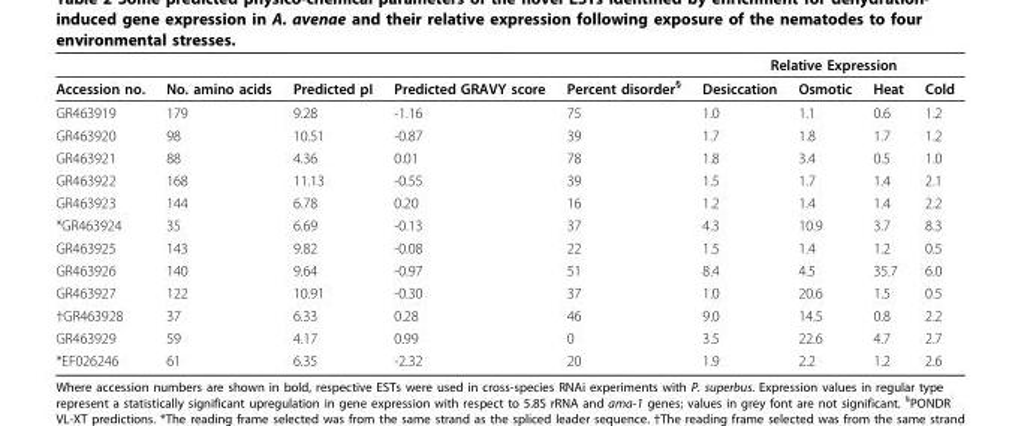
<table><thead><tr><td rowspan="2">Accession no.</td><td rowspan="2">No. amino acids</td><td rowspan="2">Predicted pI</td><td rowspan="2">Predicted GRAVY score</td><td rowspan="2">Percent disorder<sup>§</sup></td><td colspan="4">Relative Expression</td></tr><tr><td>Desiccation</td><td>Osmotic</td><td>Heat</td><td>Cold</td></tr></thead><tbody><tr><td>GR463919</td><td>179</td><td>9.28</td><td>-1.16</td><td>75</td><td>1.0</td><td>1.1</td><td>0.6</td><td>1.2</td></tr><tr><td>GR463920</td><td>98</td><td>10.51</td><td>-0.87</td><td>39</td><td>1.7</td><td>1.8</td><td>1.7</td><td>1.2</td></tr><tr><td>GR463921</td><td>88</td><td>4.36</td><td>0.01</td><td>78</td><td>1.8</td><td>3.4</td><td>0.5</td><td>1.0</td></tr><tr><td>GR463922</td><td>168</td><td>11.13</td><td>-0.55</td><td>39</td><td>1.5</td><td>1.7</td><td>1.4</td><td>2.1</td></tr><tr><td>GR463923</td><td>144</td><td>6.78</td><td>0.20</td><td>16</td><td>1.2</td><td>1.4</td><td>1.4</td><td>2.2</td></tr><tr><td>*GR463924</td><td>35</td><td>6.69</td><td>-0.13</td><td>37</td><td>4.3</td><td>10.9</td><td>3.7</td><td>8.3</td></tr><tr><td>GR463925</td><td>143</td><td>9.82</td><td>-0.08</td><td>22</td><td>1.5</td><td>1.4</td><td>1.2</td><td>0.5</td></tr><tr><td>GR463926</td><td>140</td><td>9.64</td><td>-0.97</td><td>51</td><td>8.4</td><td>4.5</td><td>35.7</td><td>6.0</td></tr><tr><td>GR463927</td><td>122</td><td>10.91</td><td>-0.30</td><td>37</td><td>1.0</td><td>20.6</td><td>1.5</td><td>0.5</td></tr><tr><td>†GR463928</td><td>37</td><td>6.33</td><td>0.28</td><td>46</td><td>9.0</td><td>14.5</td><td>0.8</td><td>2.2</td></tr><tr><td>GR463929</td><td>59</td><td>4.17</td><td>0.99</td><td>0</td><td>3.5</td><td>22.6</td><td>4.7</td><td>2.7</td></tr><tr><td>*EF026246</td><td>61</td><td>6.35</td><td>-2.32</td><td>20</td><td>1.9</td><td>2.2</td><td>1.2</td><td>2.6</td></tr></tbody></table>